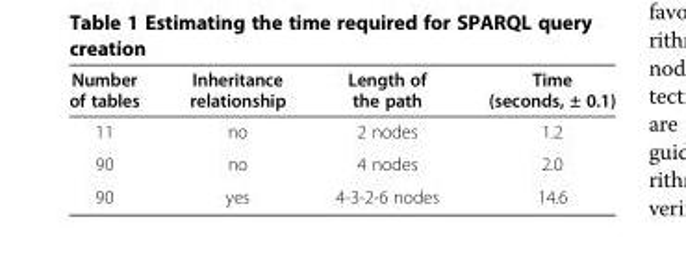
<table><thead><tr><td>Number of tables</td><td>Inheritance relationship</td><td>Length of the path</td><td>Time (seconds, ± 0.1)</td></tr></thead><tbody><tr><td>11</td><td>no</td><td>2 nodes</td><td>1.2</td></tr><tr><td>90</td><td>no</td><td>4 nodes</td><td>2.0</td></tr><tr><td>90</td><td>yes</td><td>4-3-2-6 nodes</td><td>14.6</td></tr></tbody></table>